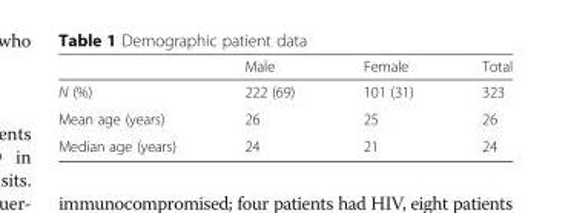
<table><thead><tr><td></td><td>Male</td><td>Female</td><td>Total</td></tr></thead><tbody><tr><td>N (%)</td><td>222 (69)</td><td>101 (31)</td><td>323</td></tr><tr><td>Mean age (years)</td><td>26</td><td>25</td><td>26</td></tr><tr><td>Median age (years)</td><td>24</td><td>21</td><td>24</td></tr></tbody></table>